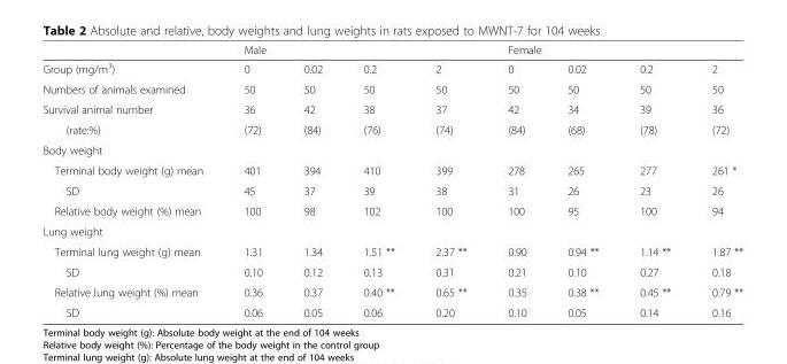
<table><thead><tr><td rowspan="2">Group (mg/m<sup>3</sup>)</td><td colspan="4">Male</td><td colspan="4">Female</td></tr><tr><td>0</td><td>0.02</td><td>0.2</td><td>2</td><td>0</td><td>0.02</td><td>0.2</td><td>2</td></tr></thead><tbody><tr><td>Numbers of animals examined</td><td>50</td><td>50</td><td>50</td><td>50</td><td>50</td><td>50</td><td>50</td><td>50</td></tr><tr><td>Survival animal number</td><td>36</td><td>42</td><td>38</td><td>37</td><td>42</td><td>34</td><td>39</td><td>36</td></tr><tr><td>(rate:%)</td><td>(72)</td><td>(84)</td><td>(76)</td><td>(74)</td><td>(84)</td><td>(68)</td><td>(78)</td><td>(72)</td></tr><tr><td colspan="9">Body weight</td></tr><tr><td>Terminal body weight (g) mean</td><td>401</td><td>394</td><td>410</td><td>399</td><td>278</td><td>265</td><td>277</td><td>261 *</td></tr><tr><td>SD</td><td>45</td><td>37</td><td>39</td><td>38</td><td>31</td><td>26</td><td>23</td><td>26</td></tr><tr><td>Relative body weight (%) mean</td><td>100</td><td>98</td><td>102</td><td>100</td><td>100</td><td>95</td><td>100</td><td>94</td></tr><tr><td colspan="9">Lung weight</td></tr><tr><td>Terminal lung weight (g) mean</td><td>1.31</td><td>1.34</td><td>1.51 **</td><td>2.37 **</td><td>0.90</td><td>0.94 **</td><td>1.14 **</td><td>1.87 **</td></tr><tr><td>SD</td><td>0.10</td><td>0.12</td><td>0.13</td><td>0.31</td><td>0.21</td><td>0.10</td><td>0.27</td><td>0.18</td></tr><tr><td>Relative lung weight (%) mean</td><td>0.36</td><td>0.37</td><td>0.40 **</td><td>0.65 **</td><td>0.35</td><td>0.38 **</td><td>0.45 **</td><td>0.79 **</td></tr><tr><td>SD</td><td>0.06</td><td>0.05</td><td>0.06</td><td>0.20</td><td>0.10</td><td>0.05</td><td>0.14</td><td>0.16</td></tr></tbody></table>